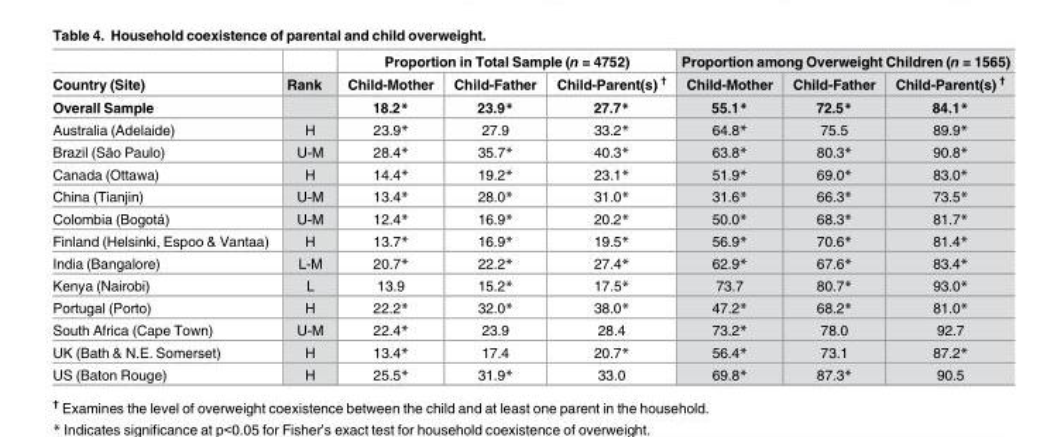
<table><thead><tr><td rowspan="2">Country (Site)</td><td rowspan="2">Rank</td><td colspan="3">Proportion in Total Sample (n = 4752)</td><td colspan="3">Proportion among Overweight Children (n = 1565)</td></tr><tr><td>Child-Mother</td><td>Child-Father</td><td>Child-Parent(s) <sup>†</sup></td><td>Child-Mother</td><td>Child-Father</td><td>Child-Parent(s) <sup>†</sup></td></tr></thead><tbody><tr><td>Overall Sample</td><td></td><td>18.2*</td><td>23.9*</td><td>27.7*</td><td>55.1*</td><td>72.5*</td><td>84.1*</td></tr><tr><td>Australia (Adelaide)</td><td>H</td><td>23.9*</td><td>27.9</td><td>33.2*</td><td>64.8*</td><td>75.5</td><td>89.9*</td></tr><tr><td>Brazil (São Paulo)</td><td>U-M</td><td>28.4*</td><td>35.7*</td><td>40.3*</td><td>63.8*</td><td>80.3*</td><td>90.8*</td></tr><tr><td>Canada (Ottawa)</td><td>H</td><td>14.4*</td><td>19.2*</td><td>23.1*</td><td>51.9*</td><td>69.0*</td><td>83.0*</td></tr><tr><td>China (Tianjin)</td><td>U-M</td><td>13.4*</td><td>28.0*</td><td>31.0*</td><td>31.6*</td><td>66.3*</td><td>73.5*</td></tr><tr><td>Colombia (Bogotá)</td><td>U-M</td><td>12.4*</td><td>16.9*</td><td>20.2*</td><td>50.0*</td><td>68.3*</td><td>81.7*</td></tr><tr><td>Finland (Helsinki, Espoo &amp; Vantaa)</td><td>H</td><td>13.7*</td><td>16.9*</td><td>19.5*</td><td>56.9*</td><td>70.6*</td><td>81.4*</td></tr><tr><td>India (Bangalore)</td><td>L-M</td><td>20.7*</td><td>22.2*</td><td>27.4*</td><td>62.9*</td><td>67.6*</td><td>83.4*</td></tr><tr><td>Kenya (Nairobi)</td><td>L</td><td>13.9</td><td>15.2*</td><td>17.5*</td><td>73.7</td><td>80.7*</td><td>93.0*</td></tr><tr><td>Portugal (Porto)</td><td>H</td><td>22.2*</td><td>32.0*</td><td>38.0*</td><td>47.2*</td><td>68.2*</td><td>81.0*</td></tr><tr><td>South Africa (Cape Town)</td><td>U-M</td><td>22.4*</td><td>23.9</td><td>28.4</td><td>73.2*</td><td>78.0</td><td>92.7</td></tr><tr><td>UK (Bath &amp; N.E. Somerset)</td><td>H</td><td>13.4*</td><td>17.4</td><td>20.7*</td><td>56.4*</td><td>73.1</td><td>87.2*</td></tr><tr><td>US (Baton Rouge)</td><td>H</td><td>25.5*</td><td>31.9*</td><td>33.0</td><td>69.8*</td><td>87.3*</td><td>90.5</td></tr></tbody></table>